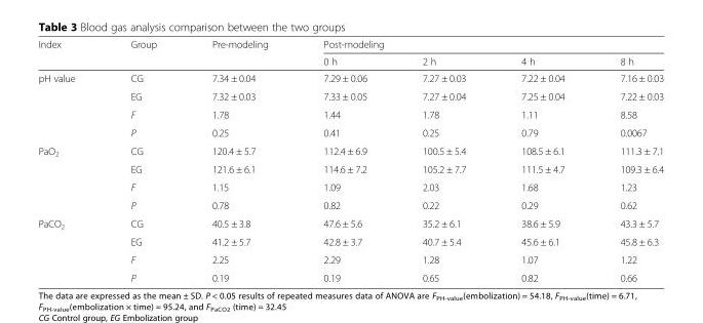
<table><thead><tr><td rowspan="2">Index</td><td rowspan="2">Group</td><td rowspan="2">Pre-modeling</td><td colspan="4">Post-modeling</td></tr><tr><td>0 h</td><td>2 h</td><td>4 h</td><td>8 h</td></tr></thead><tbody><tr><td rowspan="4">pH value</td><td>CG</td><td>7.34 ± 0.04</td><td>7.29 ± 0.06</td><td>7.27 ± 0.03</td><td>7.22 ± 0.04</td><td>7.16 ± 0.03</td></tr><tr><td>EG</td><td>7.32 ± 0.03</td><td>7.33 ± 0.05</td><td>7.27 ± 0.04</td><td>7.25 ± 0.04</td><td>7.22 ± 0.03</td></tr><tr><td>F</td><td>1.78</td><td>1.44</td><td>1.78</td><td>1.11</td><td>8.58</td></tr><tr><td>P</td><td>0.25</td><td>0.41</td><td>0.25</td><td>0.79</td><td>0.0067</td></tr><tr><td rowspan="4">PaO<sub>2</sub></td><td>CG</td><td>120.4 ± 5.7</td><td>112.4 ± 6.9</td><td>100.5 ± 5.4</td><td>108.5 ± 6.1</td><td>111.3 ± 7.1</td></tr><tr><td>EG</td><td>121.6 ± 6.1</td><td>114.6 ± 7.2</td><td>105.2 ± 7.7</td><td>111.5 ± 4.7</td><td>109.3 ± 6.4</td></tr><tr><td>F</td><td>1.15</td><td>1.09</td><td>2.03</td><td>1.68</td><td>1.23</td></tr><tr><td>P</td><td>0.78</td><td>0.82</td><td>0.22</td><td>0.29</td><td>0.62</td></tr><tr><td rowspan="4">PaCO<sub>2</sub></td><td>CG</td><td>40.5 ± 3.8</td><td>47.6 ± 5.6</td><td>35.2 ± 6.1</td><td>38.6 ± 5.9</td><td>43.3 ± 5.7</td></tr><tr><td>EG</td><td>41.2 ± 5.7</td><td>42.8 ± 3.7</td><td>40.7 ± 5.4</td><td>45.6 ± 6.1</td><td>45.8 ± 6.3</td></tr><tr><td>F</td><td>2.25</td><td>2.29</td><td>1.28</td><td>1.07</td><td>1.22</td></tr><tr><td>P</td><td>0.19</td><td>0.19</td><td>0.65</td><td>0.82</td><td>0.66</td></tr></tbody></table>